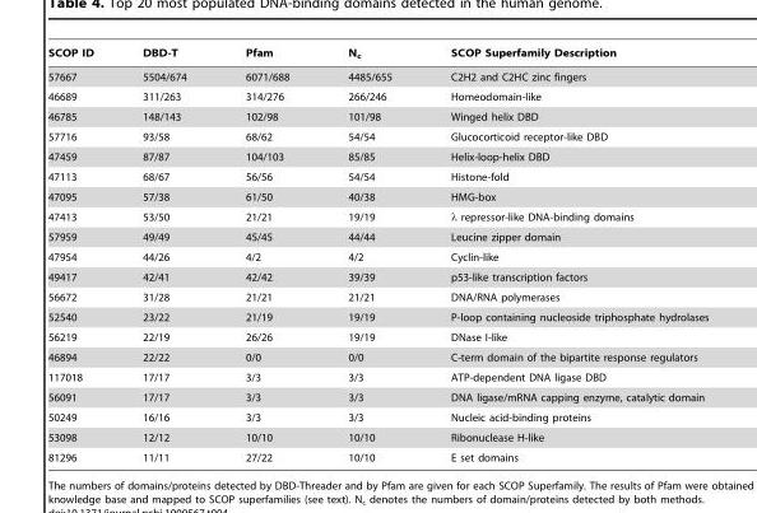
<table><thead><tr><td>SCOP ID</td><td>DBD-T</td><td>Pfam</td><td>N<sub>c</sub></td><td>SCOP Superfamily Description</td></tr></thead><tbody><tr><td>57667</td><td>5504/674</td><td>6071/688</td><td>4485/655</td><td>C2H2 and C2HC zinc fingers</td></tr><tr><td>46689</td><td>311/263</td><td>314/276</td><td>266/246</td><td>Homeodomain-like</td></tr><tr><td>46785</td><td>148/143</td><td>102/98</td><td>101/98</td><td>Winged helix DBD</td></tr><tr><td>57716</td><td>93/58</td><td>68/62</td><td>54/54</td><td>Glucocorticoid receptor-like DBD</td></tr><tr><td>47459</td><td>87/87</td><td>104/103</td><td>85/85</td><td>Helix-loop-helix DBD</td></tr><tr><td>47113</td><td>68/67</td><td>56/56</td><td>54/54</td><td>Histone-fold</td></tr><tr><td>47095</td><td>57/38</td><td>61/50</td><td>40/38</td><td>HMG-box</td></tr><tr><td>47413</td><td>53/50</td><td>21/21</td><td>19/19</td><td>λ repressor-like DNA-binding domains</td></tr><tr><td>57959</td><td>49/49</td><td>45/45</td><td>44/44</td><td>Leucine zipper domain</td></tr><tr><td>47954</td><td>44/26</td><td>4/2</td><td>4/2</td><td>Cyclin-like</td></tr><tr><td>49417</td><td>42/41</td><td>42/42</td><td>39/39</td><td>p53-like transcription factors</td></tr><tr><td>56672</td><td>31/28</td><td>21/21</td><td>21/21</td><td>DNA/RNA polymerases</td></tr><tr><td>52540</td><td>23/22</td><td>21/19</td><td>19/19</td><td>P-loop containing nucleoside triphosphate hydrolases</td></tr><tr><td>56219</td><td>22/19</td><td>26/26</td><td>19/19</td><td>DNase I-like</td></tr><tr><td>46894</td><td>22/22</td><td>0/0</td><td>0/0</td><td>C-term domain of the bipartite response regulators</td></tr><tr><td>117018</td><td>17/17</td><td>3/3</td><td>3/3</td><td>ATP-dependent DNA ligase DBD</td></tr><tr><td>56091</td><td>17/17</td><td>3/3</td><td>3/3</td><td>DNA ligase/mRNA capping enzyme, catalytic domain</td></tr><tr><td>50249</td><td>16/16</td><td>3/3</td><td>3/3</td><td>Nucleic acid-binding proteins</td></tr><tr><td>53098</td><td>12/12</td><td>10/10</td><td>10/10</td><td>Ribonuclease H-like</td></tr><tr><td>81296</td><td>11/11</td><td>27/22</td><td>10/10</td><td>E set domains</td></tr></tbody></table>